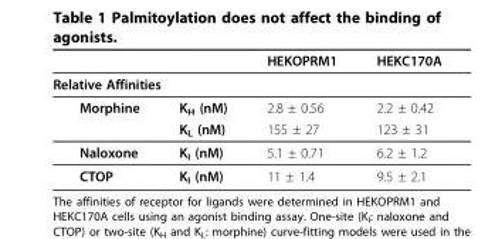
<table><thead><tr><td></td><td></td><td>HEKOPRM1</td><td>HEKC170A</td></tr></thead><tbody><tr><td colspan="4">Relative Affinities</td></tr><tr><td rowspan="2">Morphine</td><td>K<sub>H</sub> (nM)</td><td>2.8 ± 0.56</td><td>2.2 ± 0.42</td></tr><tr><td>K<sub>L</sub> (nM)</td><td>155 ± 27</td><td>123 ± 31</td></tr><tr><td>Naloxone</td><td>K<sub>I</sub> (nM)</td><td>5.1 ± 0.71</td><td>6.2 ± 1.2</td></tr><tr><td>CTOP</td><td>K<sub>I</sub> (nM)</td><td>11 ± 1.4</td><td>9.5 ± 2.1</td></tr></tbody></table>